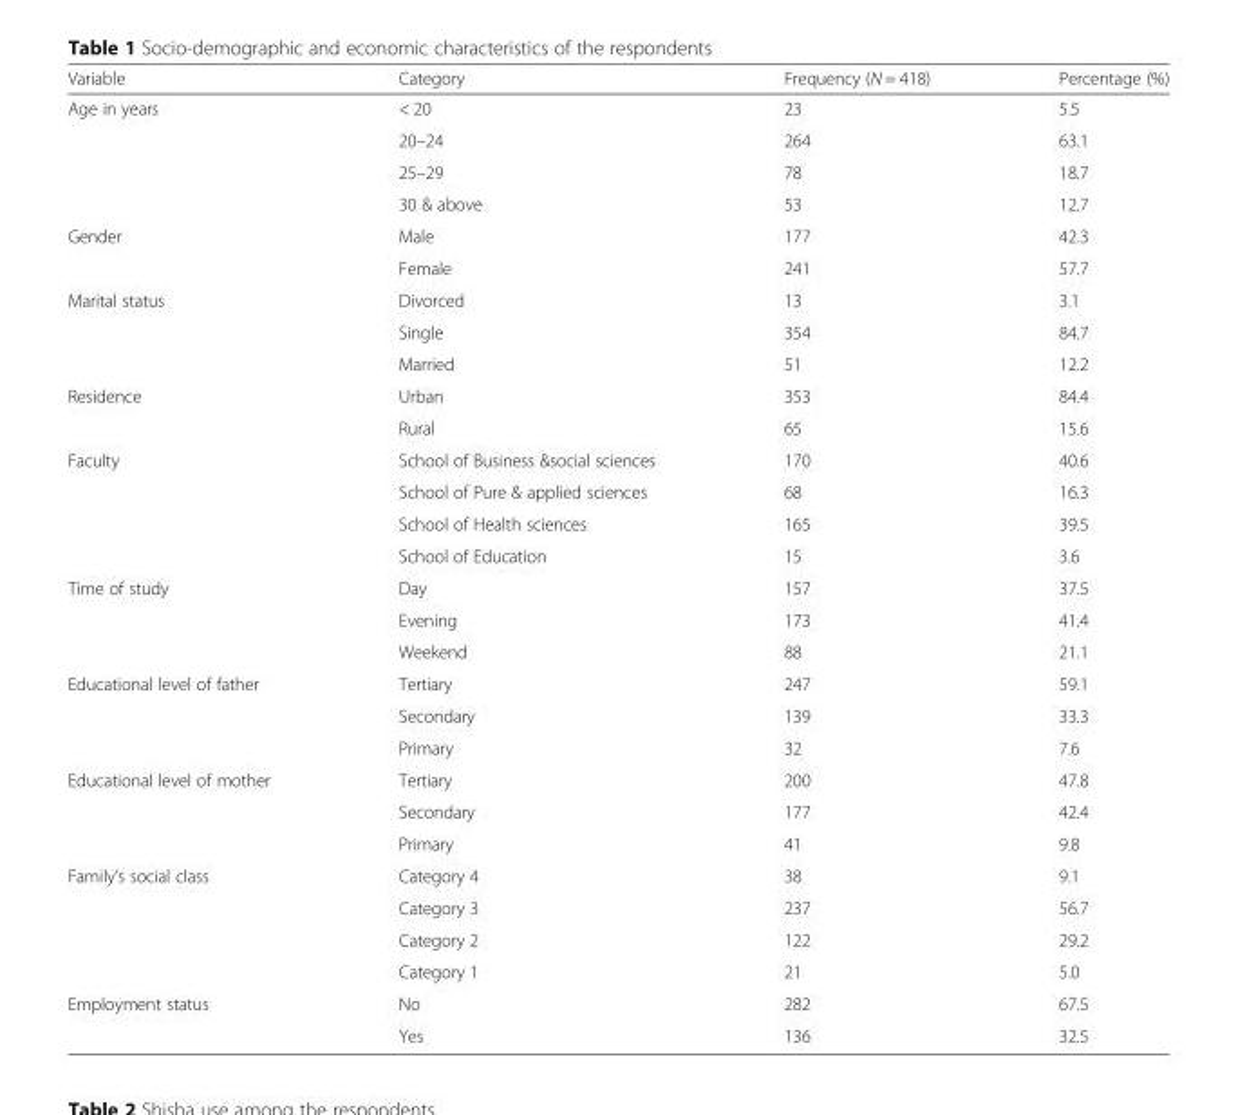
<table><thead><tr><td>Variable</td><td>Category</td><td>Frequency (N = 418)</td><td>Percentage (%)</td></tr></thead><tbody><tr><td rowspan="4">Age in years</td><td>&lt; 20</td><td>23</td><td>5.5</td></tr><tr><td>20–24</td><td>264</td><td>63.1</td></tr><tr><td>25–29</td><td>78</td><td>18.7</td></tr><tr><td>30 &amp; above</td><td>53</td><td>12.7</td></tr><tr><td rowspan="2">Gender</td><td>Male</td><td>177</td><td>42.3</td></tr><tr><td>Female</td><td>241</td><td>57.7</td></tr><tr><td rowspan="3">Marital status</td><td>Divorced</td><td>13</td><td>3.1</td></tr><tr><td>Single</td><td>354</td><td>84.7</td></tr><tr><td>Married</td><td>51</td><td>12.2</td></tr><tr><td rowspan="2">Residence</td><td>Urban</td><td>353</td><td>84.4</td></tr><tr><td>Rural</td><td>65</td><td>15.6</td></tr><tr><td rowspan="4">Faculty</td><td>School of Business &amp;social sciences</td><td>170</td><td>40.6</td></tr><tr><td>School of Pure &amp; applied sciences</td><td>68</td><td>16.3</td></tr><tr><td>School of Health sciences</td><td>165</td><td>39.5</td></tr><tr><td>School of Education</td><td>15</td><td>3.6</td></tr><tr><td rowspan="3">Time of study</td><td>Day</td><td>157</td><td>37.5</td></tr><tr><td>Evening</td><td>173</td><td>41.4</td></tr><tr><td>Weekend</td><td>88</td><td>21.1</td></tr><tr><td rowspan="3">Educational level of father</td><td>Tertiary</td><td>247</td><td>59.1</td></tr><tr><td>Secondary</td><td>139</td><td>33.3</td></tr><tr><td>Primary</td><td>32</td><td>7.6</td></tr><tr><td rowspan="3">Educational level of mother</td><td>Tertiary</td><td>200</td><td>47.8</td></tr><tr><td>Secondary</td><td>177</td><td>42.4</td></tr><tr><td>Primary</td><td>41</td><td>9.8</td></tr><tr><td rowspan="4">Family’s social class</td><td>Category 4</td><td>38</td><td>9.1</td></tr><tr><td>Category 3</td><td>237</td><td>56.7</td></tr><tr><td>Category 2</td><td>122</td><td>29.2</td></tr><tr><td>Category 1</td><td>21</td><td>5.0</td></tr><tr><td rowspan="2">Employment status</td><td>No</td><td>282</td><td>67.5</td></tr><tr><td>Yes</td><td>136</td><td>32.5</td></tr></tbody></table>